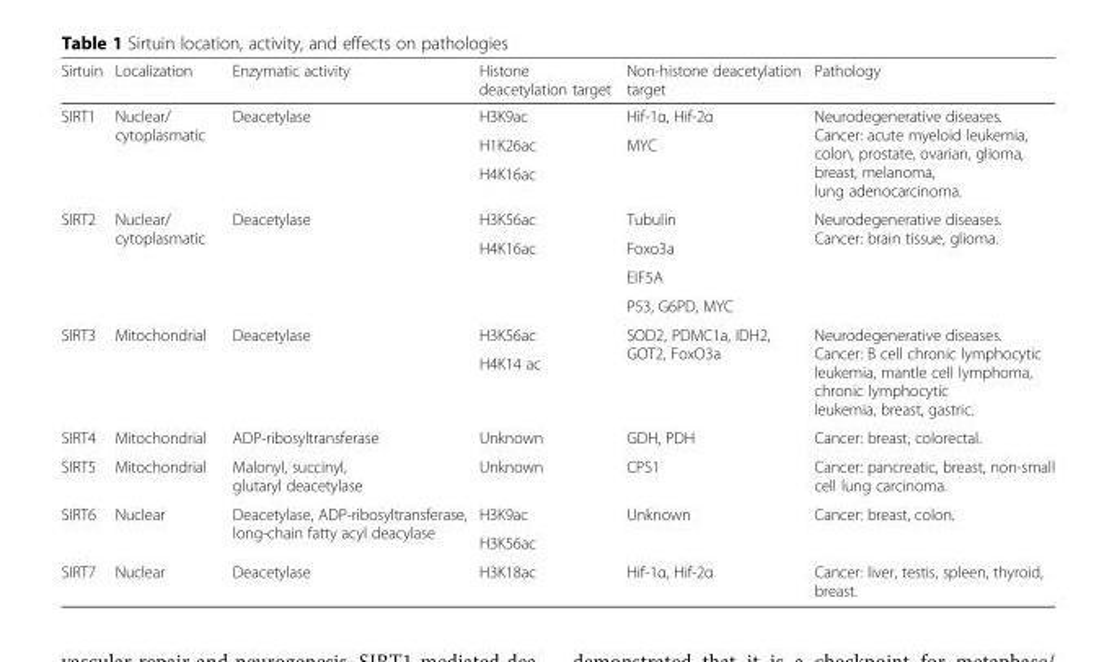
<table><thead><tr><td>Sirtuin</td><td>Localization</td><td>Enzymatic activity</td><td>Histone deacetylation target</td><td>Non-histone deacetylation target</td><td>Pathology</td></tr></thead><tbody><tr><td rowspan="3">SIRT1</td><td rowspan="3">Nuclear/ cytoplasmatic</td><td rowspan="3">Deacetylase</td><td>H3K9ac</td><td>Hif-1α, Hif-2α</td><td rowspan="3">Neurodegenerative diseases. Cancer: acute myeloid leukemia, colon, prostate, ovarian, glioma, breast, melanoma, lung adenocarcinoma.</td></tr><tr><td>H1K26ac</td><td rowspan="2">MYC</td></tr><tr><td>H4K16ac</td></tr><tr><td rowspan="4">SIRT2</td><td rowspan="4">Nuclear/ cytoplasmatic</td><td rowspan="4">Deacetylase</td><td>H3K56ac</td><td>Tubulin</td><td rowspan="4">Neurodegenerative diseases. Cancer: brain tissue, glioma.</td></tr><tr><td>H4K16ac</td><td>Foxo3a</td></tr><tr><td rowspan="2"></td><td>EIF5A</td></tr><tr><td>P53, G6PD, MYC</td></tr><tr><td rowspan="2">SIRT3</td><td rowspan="2">Mitochondrial</td><td rowspan="2">Deacetylase</td><td>H3K56ac</td><td rowspan="2">SOD2, PDMC1a, IDH2, GOT2, FoxO3a</td><td rowspan="2">Neurodegenerative diseases. Cancer: B cell chronic lymphocytic leukemia, mantle cell lymphoma, chronic lymphocytic leukemia, breast, gastric.</td></tr><tr><td>H4K14 ac</td></tr><tr><td>SIRT4</td><td>Mitochondrial</td><td>ADP-ribosyltransferase</td><td>Unknown</td><td>GDH, PDH</td><td>Cancer: breast, colorectal.</td></tr><tr><td>SIRT5</td><td>Mitochondrial</td><td>Malonyl, succinyl, glutaryl deacetylase</td><td>Unknown</td><td>CPS1</td><td>Cancer: pancreatic, breast, non-small cell lung carcinoma.</td></tr><tr><td rowspan="2">SIRT6</td><td rowspan="2">Nuclear</td><td rowspan="2">Deacetylase, ADP-ribosyltransferase, long-chain fatty acyl deacylase</td><td>H3K9ac</td><td rowspan="2">Unknown</td><td rowspan="2">Cancer: breast, colon.</td></tr><tr><td>H3K56ac</td></tr><tr><td>SIRT7</td><td>Nuclear</td><td>Deacetylase</td><td>H3K18ac</td><td>Hif-1α, Hif-2α</td><td>Cancer: liver, testis, spleen, thyroid, breast.</td></tr></tbody></table>